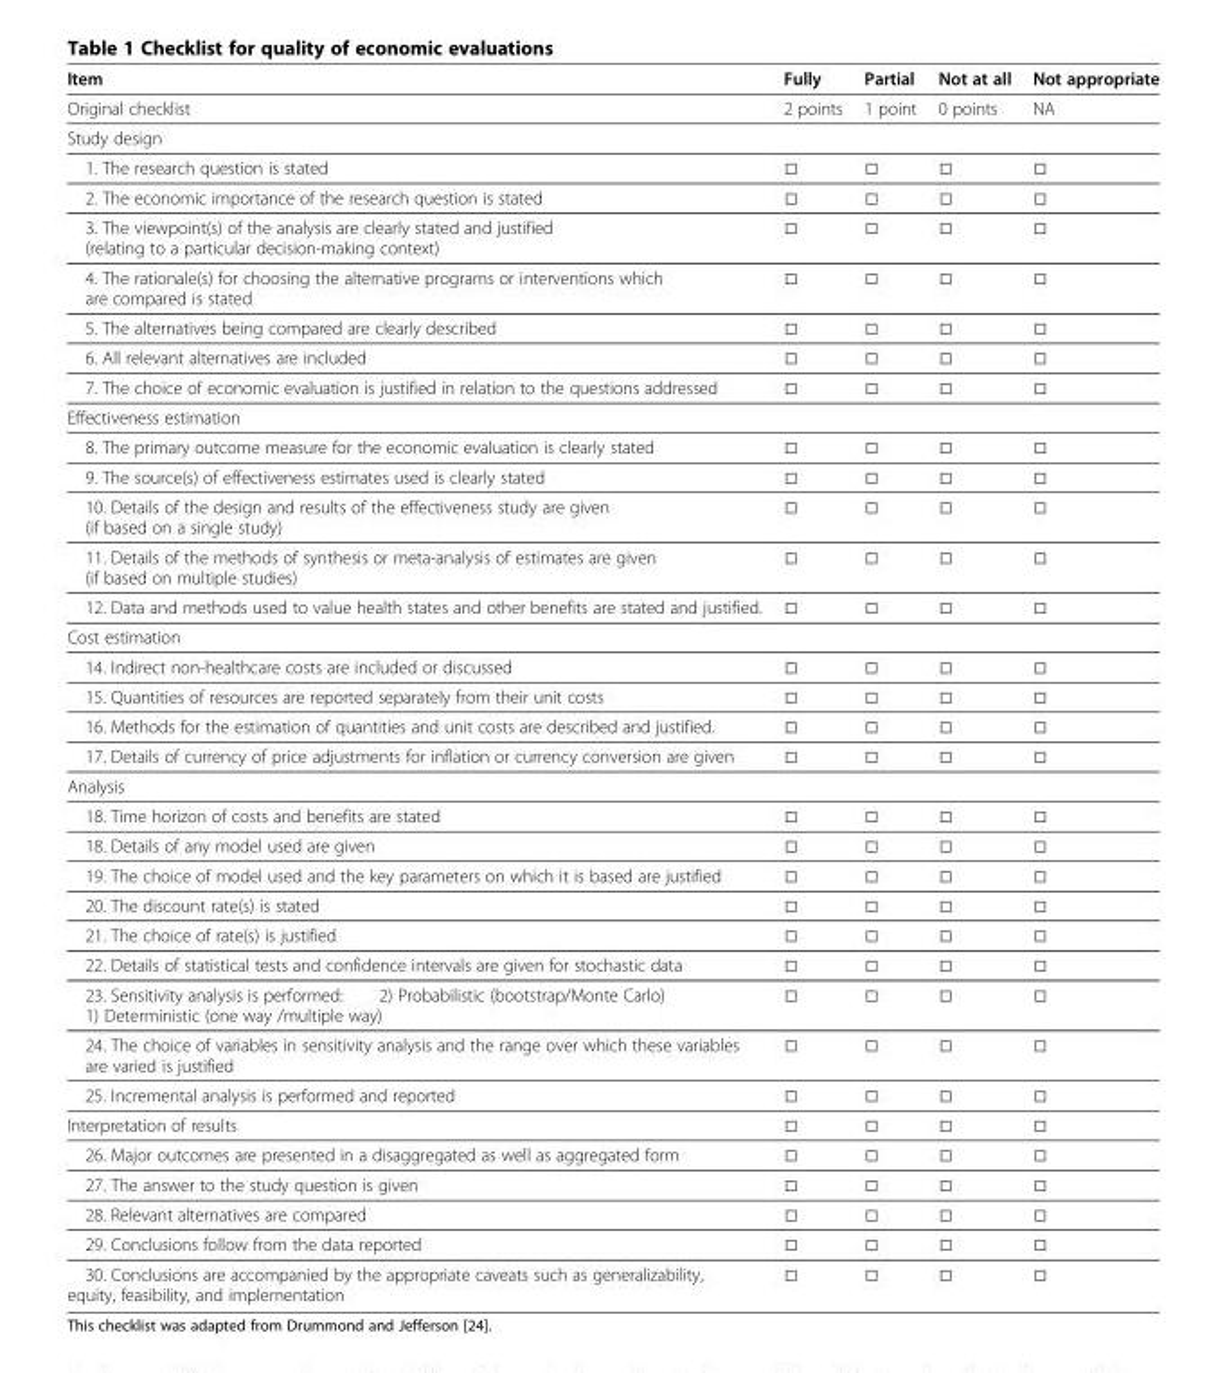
<table><thead><tr><td>Item</td><td>Fully</td><td>Partial</td><td>Not at all</td><td>Not appropriate</td></tr></thead><tbody><tr><td>Original checklist</td><td>2 points</td><td>1 point</td><td>0 points</td><td>NA</td></tr><tr><td colspan="5">Study design</td></tr><tr><td>1. The research question is stated</td><td>□</td><td>□</td><td>□</td><td>□</td></tr><tr><td>2. The economic importance of the research question is stated</td><td>□</td><td>□</td><td>□</td><td>□</td></tr><tr><td>3. The viewpoint(s) of the analysis are clearly stated and justified (relating to a particular decision-making context)</td><td>□</td><td>□</td><td>□</td><td>□</td></tr><tr><td>4. The rationale(s) for choosing the alternative programs or interventions which are compared is stated</td><td>□</td><td>□</td><td>□</td><td>□</td></tr><tr><td>5. The alternatives being compared are clearly described</td><td>□</td><td>□</td><td>□</td><td>□</td></tr><tr><td>6. All relevant alternatives are included</td><td>□</td><td>□</td><td>□</td><td>□</td></tr><tr><td>7. The choice of economic evaluation is justified in relation to the questions addressed</td><td>□</td><td>□</td><td>□</td><td>□</td></tr><tr><td colspan="5">Effectiveness estimation</td></tr><tr><td>8. The primary outcome measure for the economic evaluation is clearly stated</td><td>□</td><td>□</td><td>□</td><td>□</td></tr><tr><td>9. The source(s) of effectiveness estimates used is clearly stated</td><td>□</td><td>□</td><td>□</td><td>□</td></tr><tr><td>10. Details of the design and results of the effectiveness study are given (if based on a single study)</td><td>□</td><td>□</td><td>□</td><td>□</td></tr><tr><td>11. Details of the methods of synthesis or meta-analysis of estimates are given (if based on multiple studies)</td><td>□</td><td>□</td><td>□</td><td>□</td></tr><tr><td>12. Data and methods used to value health states and other benefits are stated and justified.</td><td>□</td><td>□</td><td>□</td><td>□</td></tr><tr><td colspan="5">Cost estimation</td></tr><tr><td>14. Indirect non-healthcare costs are included or discussed</td><td>□</td><td>□</td><td>□</td><td>□</td></tr><tr><td>15. Quantities of resources are reported separately from their unit costs</td><td>□</td><td>□</td><td>□</td><td>□</td></tr><tr><td>16. Methods for the estimation of quantities and unit costs are described and justified.</td><td>□</td><td>□</td><td>□</td><td>□</td></tr><tr><td>17. Details of currency of price adjustments for inflation or currency conversion are given</td><td>□</td><td>□</td><td>□</td><td>□</td></tr><tr><td colspan="5">Analysis</td></tr><tr><td>18. Time horizon of costs and benefits are stated</td><td>□</td><td>□</td><td>□</td><td>□</td></tr><tr><td>18. Details of any model used are given</td><td>□</td><td>□</td><td>□</td><td>□</td></tr><tr><td>19. The choice of model used and the key parameters on which it is based are justified</td><td>□</td><td>□</td><td>□</td><td>□</td></tr><tr><td>20. The discount rate(s) is stated</td><td>□</td><td>□</td><td>□</td><td>□</td></tr><tr><td>21. The choice of rate(s) is justified</td><td>□</td><td>□</td><td>□</td><td>□</td></tr><tr><td>22. Details of statistical tests and confidence intervals are given for stochastic data</td><td>□</td><td>□</td><td>□</td><td>□</td></tr><tr><td>23. Sensitivity analysis is performed: 2) Probabilistic (bootstrap/Monte Carlo) 1) Deterministic (one way /multiple way)</td><td>□</td><td>□</td><td>□</td><td>□</td></tr><tr><td>24. The choice of variables in sensitivity analysis and the range over which these variables are varied is justified</td><td>□</td><td>□</td><td>□</td><td>□</td></tr><tr><td>25. Incremental analysis is performed and reported</td><td>□</td><td>□</td><td>□</td><td>□</td></tr><tr><td>Interpretation of results</td><td>□</td><td>□</td><td>□</td><td>□</td></tr><tr><td>26. Major outcomes are presented in a disaggregated as well as aggregated form</td><td>□</td><td>□</td><td>□</td><td>□</td></tr><tr><td>27. The answer to the study question is given</td><td>□</td><td>□</td><td>□</td><td>□</td></tr><tr><td>28. Relevant alternatives are compared</td><td>□</td><td>□</td><td>□</td><td>□</td></tr><tr><td>29. Conclusions follow from the data reported</td><td>□</td><td>□</td><td>□</td><td>□</td></tr><tr><td>30. Conclusions are accompanied by the appropriate caveats such as generalizability, equity, feasibility, and implementation</td><td>□</td><td>□</td><td>□</td><td>□</td></tr></tbody></table>